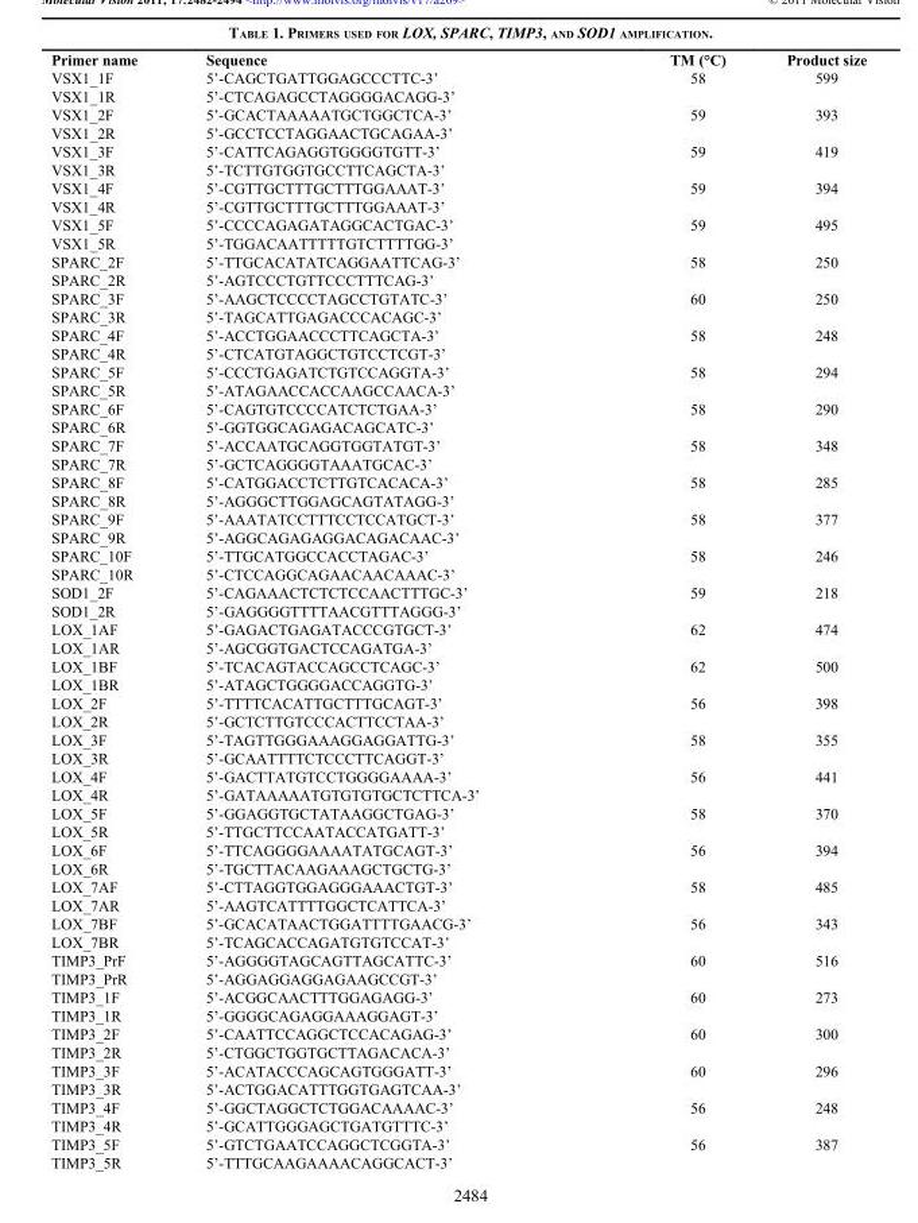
<table><thead><tr><td>Primer name</td><td>Sequence</td><td>TM (°C)</td><td>Product size</td></tr></thead><tbody><tr><td>VSX1_1F</td><td>5’-CAGCTGATTGGAGCCCTTC-3’</td><td>58</td><td>599</td></tr><tr><td>VSX1_1R</td><td>5’-CTCAGAGCCTAGGGGACAGG-3’</td><td></td><td></td></tr><tr><td>VSX1_2F</td><td>5’-GCACTAAAAATGCTGGCTCA-3’</td><td>59</td><td>393</td></tr><tr><td>VSX1_2R</td><td>5’-GCCTCCTAGGAACTGCAGAA-3’</td><td></td><td></td></tr><tr><td>VSX1_3F</td><td>5’-CATTCAGAGGTGGGGTGTT-3’</td><td>59</td><td>419</td></tr><tr><td>VSX1_3R</td><td>5’-TCTTGTGGTGCCTTCAGCTA-3’</td><td></td><td></td></tr><tr><td>VSX1_4F</td><td>5’-CGTTGCTTTGCTTTGGAAAT-3’</td><td>59</td><td>394</td></tr><tr><td>VSX1_4R</td><td>5’-CGTTGCTTTGCTTTGGAAAT-3’</td><td></td><td></td></tr><tr><td>VSX1_5F</td><td>5’-CCCCAGAGATAGGCACTGAC-3’</td><td>59</td><td>495</td></tr><tr><td>VSX1_5R</td><td>5’-TGGACAATTTTTGTCTTTTGG-3’</td><td></td><td></td></tr><tr><td>SPARC_2F</td><td>5’-TTGCACATATCAGGAATTCAG-3’</td><td>58</td><td>250</td></tr><tr><td>SPARC_2R</td><td>5’-AGTCCCTGTTCCCTTTCAG-3’</td><td></td><td></td></tr><tr><td>SPARC_3F</td><td>5’-AAGCTCCCCTAGCCTGTATC-3’</td><td>60</td><td>250</td></tr><tr><td>SPARC_3R</td><td>5’-TAGCATTGAGACCCACAGC-3’</td><td></td><td></td></tr><tr><td>SPARC_4F</td><td>5’-ACCTGGAACCCTTCAGCTA-3’</td><td>58</td><td>248</td></tr><tr><td>SPARC_4R</td><td>5’-CTCATGTAGGCTGTCCTCGT-3’</td><td></td><td></td></tr><tr><td>SPARC_5F</td><td>5’-CCCTGAGATCTGTCCAGGTA-3’</td><td>58</td><td>294</td></tr><tr><td>SPARC_5R</td><td>5’-ATAGAACCACCAAGCCAACA-3’</td><td></td><td></td></tr><tr><td>SPARC_6F</td><td>5’-CAGTGTCCCCATCTCTGAA-3’</td><td>58</td><td>290</td></tr><tr><td>SPARC_6R</td><td>5’-GGTGGCAGAGACAGCATC-3’</td><td></td><td></td></tr><tr><td>SPARC_7F</td><td>5’-ACCAATGCAGGTGGTATGT-3’</td><td>58</td><td>348</td></tr><tr><td>SPARC_7R</td><td>5’-GCTCAGGGGTAAATGCAC-3’</td><td></td><td></td></tr><tr><td>SPARC_8F</td><td>5’-CATGGACCTCTTGTCACACA-3’</td><td>58</td><td>285</td></tr><tr><td>SPARC_8R</td><td>5’-AGGGCTTGGAGCAGTATAGG-3’</td><td></td><td></td></tr><tr><td>SPARC_9F</td><td>5’-AAATATCCTTTCCTCCATGCT-3’</td><td>58</td><td>377</td></tr><tr><td>SPARC_9R</td><td>5’-AGGCAGAGAGGACAGACAAC-3’</td><td></td><td></td></tr><tr><td>SPARC_10F</td><td>5’-TTGCATGGCCACCTAGAC-3’</td><td>58</td><td>246</td></tr><tr><td>SPARC_10R</td><td>5’-CTCCAGGCAGAACAACAAAC-3’</td><td></td><td></td></tr><tr><td>SOD1_2F</td><td>5’-CAGAAACTCTCTCCAACTTTGC-3’</td><td>59</td><td>218</td></tr><tr><td>SOD1_2R</td><td>5’-GAGGGGTTTTAACGTTTAGGG-3’</td><td></td><td></td></tr><tr><td>LOX_1AF</td><td>5’-GAGACTGAGATACCCGTGCT-3’</td><td>62</td><td>474</td></tr><tr><td>LOX_1AR</td><td>5’-AGCGGTGACTCCAGATGA-3’</td><td></td><td></td></tr><tr><td>LOX_1BF</td><td>5’-TCACAGTACCAGCCTCAGC-3’</td><td>62</td><td>500</td></tr><tr><td>LOX_1BR</td><td>5’-ATAGCTGGGGACCAGGTG-3’</td><td></td><td></td></tr><tr><td>LOX_2F</td><td>5’-TTTTCACATTGCTTTGCAGT-3’</td><td>56</td><td>398</td></tr><tr><td>LOX_2R</td><td>5’-GCTCTTGTCCCACTTCCTAA-3’</td><td></td><td></td></tr><tr><td>LOX_3F</td><td>5’-TAGTTGGGAAAGGAGGATTG-3’</td><td>58</td><td>355</td></tr><tr><td>LOX_3R</td><td>5’-GCAATTTTCTCCCTTCAGGT-3’</td><td></td><td></td></tr><tr><td>LOX_4F</td><td>5’-GACTTATGTCCTGGGGAAAA-3’</td><td>56</td><td>441</td></tr><tr><td>LOX_4R</td><td>5’-GATAAAAATGTGTGTGCTCTTCA-3’</td><td></td><td></td></tr><tr><td>LOX_5F</td><td>5’-GGAGGTGCTATAAGGCTGAG-3’</td><td>58</td><td>370</td></tr><tr><td>LOX_5R</td><td>5’-TTGCTTCCAATACCATGATT-3’</td><td></td><td></td></tr><tr><td>LOX_6F</td><td>5’-TTCAGGGGAAAATATGCAGT-3’</td><td>56</td><td>394</td></tr><tr><td>LOX_6R</td><td>5’-TGCTTACAAGAAAGCTGCTG-3’</td><td></td><td></td></tr><tr><td>LOX_7AF</td><td>5’-CTTAGGTGGAGGGAAACTGT-3’</td><td>58</td><td>485</td></tr><tr><td>LOX_7AR</td><td>5’-AAGTCATTTTGGCTCATTCA-3’</td><td></td><td></td></tr><tr><td>LOX_7BF</td><td>5’-GCACATAACTGGATTTTGAACG-3’</td><td>56</td><td>343</td></tr><tr><td>LOX_7BR</td><td>5’-TCAGCACCAGATGTGTCCAT-3’</td><td></td><td></td></tr><tr><td>TIMP3_PrF</td><td>5’-AGGGGTAGCAGTTAGCATTC-3’</td><td>60</td><td>516</td></tr><tr><td>TIMP3_PrR</td><td>5’-AGGAGGAGGAGAAGCCGT-3’</td><td></td><td></td></tr><tr><td>TIMP3_1F</td><td>5’-ACGGCAACTTTGGAGAGG-3’</td><td>60</td><td>273</td></tr><tr><td>TIMP3_1R</td><td>5’-GGGGCAGAGGAAAGGAGT-3’</td><td></td><td></td></tr><tr><td>TIMP3_2F</td><td>5’-CAATTCCAGGCTCCACAGAG-3’</td><td>60</td><td>300</td></tr><tr><td>TIMP3_2R</td><td>5’-CTGGCTGGTGCTTAGACACA-3’</td><td></td><td></td></tr><tr><td>TIMP3_3F</td><td>5’-ACATACCCAGCAGTGGGATT-3’</td><td>60</td><td>296</td></tr><tr><td>TIMP3_3R</td><td>5’-ACTGGACATTTGGTGAGTCAA-3’</td><td></td><td></td></tr><tr><td>TIMP3_4F</td><td>5’-GGCTAGGCTCTGGACAAAAC-3’</td><td>56</td><td>248</td></tr><tr><td>TIMP3_4R</td><td>5’-GCATTGGGAGCTGATGTTTC-3’</td><td></td><td></td></tr><tr><td>TIMP3_5F</td><td>5’-GTCTGAATCCAGGCTCGGTA-3’</td><td>56</td><td>387</td></tr><tr><td>TIMP3_5R</td><td>5’-TTTGCAAGAAAACAGGCACT-3’</td><td></td><td></td></tr></tbody></table>